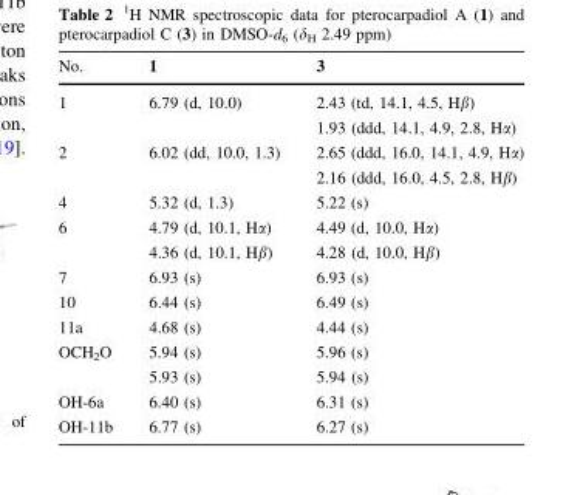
<table><thead><tr><td>No.</td><td>1</td><td>3</td></tr></thead><tbody><tr><td>1</td><td>6.79 (d, 10.0)</td><td>2.43 (td, 14.1, 4.5, Hβ) 1.93 (ddd, 14.1, 4.9, 2.8, Hα)</td></tr><tr><td>2</td><td>6.02 (dd, 10.0, 1.3)</td><td>2.65 (ddd, 16.0, 14.1, 4.9, Hα) 2.16 (ddd, 16.0, 4.5, 2.8, Hβ)</td></tr><tr><td>4</td><td>5.32 (d, 1.3)</td><td>5.22 (s)</td></tr><tr><td>6</td><td>4.79 (d, 10.1, Hα) 4.36 (d, 10.1, Hβ)</td><td>4.49 (d, 10.0, Hα) 4.28 (d, 10.0, Hβ)</td></tr><tr><td>7</td><td>6.93 (s)</td><td>6.93 (s)</td></tr><tr><td>10</td><td>6.44 (s)</td><td>6.49 (s)</td></tr><tr><td>11a</td><td>4.68 (s)</td><td>4.44 (s)</td></tr><tr><td>OCH<sub>2</sub>O</td><td>5.94 (s) 5.93 (s)</td><td>5.96 (s) 5.94 (s)</td></tr><tr><td>OH-6a</td><td>6.40 (s)</td><td>6.31 (s)</td></tr><tr><td>OH-11b</td><td>6.77 (s)</td><td>6.27 (s)</td></tr></tbody></table>